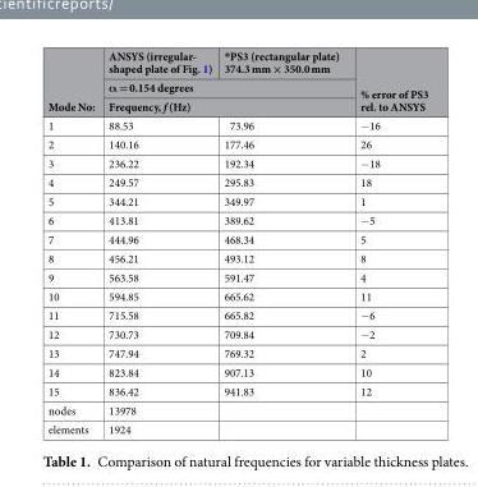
<table><thead><tr><td rowspan="3">Mode No:</td><td>ANSYS (irregular- shaped plate of Fig. 1)</td><td>*PS3 (rectangular plate) 374.3 mm × 350.0 mm</td><td rowspan="3">% error of PS3 rel. to ANSYS</td></tr><tr><td rowspan="2" colspan="2">α = 0.154 degrees Frequency, f (Hz)</td></tr><tr></tr></thead><tbody><tr><td>1</td><td>88.53</td><td>73.96</td><td>−16</td></tr><tr><td>2</td><td>140.16</td><td>177.46</td><td>26</td></tr><tr><td>3</td><td>236.22</td><td>192.34</td><td>−18</td></tr><tr><td>4</td><td>249.57</td><td>295.83</td><td>18</td></tr><tr><td>5</td><td>344.21</td><td>349.97</td><td>1</td></tr><tr><td>6</td><td>413.81</td><td>389.62</td><td>−5</td></tr><tr><td>7</td><td>444.96</td><td>468.34</td><td>5</td></tr><tr><td>8</td><td>456.21</td><td>493.12</td><td>8</td></tr><tr><td>9</td><td>563.58</td><td>591.47</td><td>4</td></tr><tr><td>10</td><td>594.85</td><td>665.62</td><td>11</td></tr><tr><td>11</td><td>715.58</td><td>665.82</td><td>−6</td></tr><tr><td>12</td><td>730.73</td><td>709.84</td><td>−2</td></tr><tr><td>13</td><td>747.94</td><td>769.32</td><td>2</td></tr><tr><td>14</td><td>823.84</td><td>907.13</td><td>10</td></tr><tr><td>15</td><td>836.42</td><td>941.83</td><td>12</td></tr><tr><td>nodes</td><td>13978</td><td></td><td></td></tr><tr><td>elements</td><td>1924</td><td></td><td></td></tr></tbody></table>